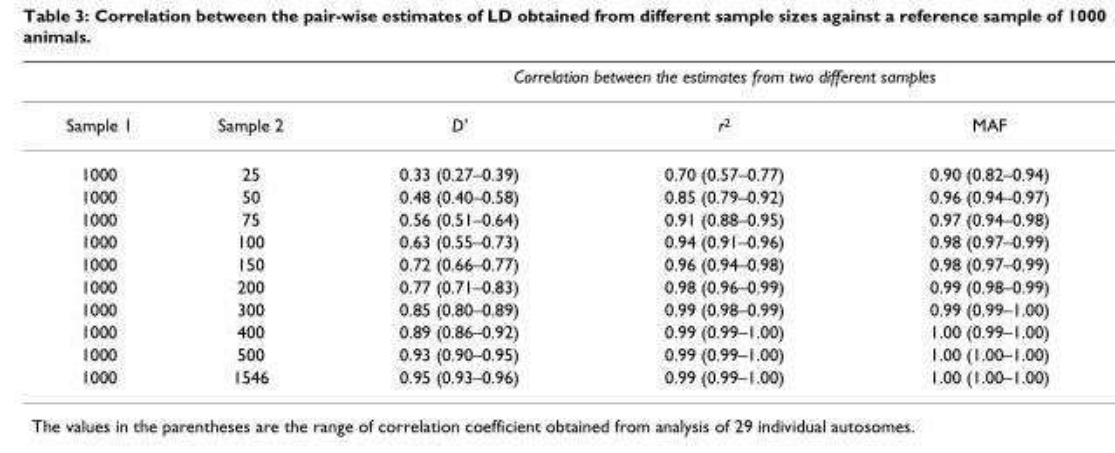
<table><thead><tr><td rowspan="2">Sample 1</td><td rowspan="2">Sample 2</td><td colspan="3">Correlation between the estimates from two different samples</td></tr><tr><td>D&#x27;</td><td>r<sup>2</sup></td><td>MAF</td></tr></thead><tbody><tr><td>1000</td><td>25</td><td>0.33 (0.27–0.39)</td><td>0.70 (0.57–0.77)</td><td>0.90 (0.82–0.94)</td></tr><tr><td>1000</td><td>50</td><td>0.48 (0.40–0.58)</td><td>0.85 (0.79–0.92)</td><td>0.96 (0.94–0.97)</td></tr><tr><td>1000</td><td>75</td><td>0.56 (0.51–0.64)</td><td>0.91 (0.88–0.95)</td><td>0.97 (0.94–0.98)</td></tr><tr><td>1000</td><td>100</td><td>0.63 (0.55–0.73)</td><td>0.94 (0.91–0.96)</td><td>0.98 (0.97–0.99)</td></tr><tr><td>1000</td><td>150</td><td>0.72 (0.66–0.77)</td><td>0.96 (0.94–0.98)</td><td>0.98 (0.97–0.99)</td></tr><tr><td>1000</td><td>200</td><td>0.77 (0.71–0.83)</td><td>0.98 (0.96–0.99)</td><td>0.99 (0.98–0.99)</td></tr><tr><td>1000</td><td>300</td><td>0.85 (0.80–0.89)</td><td>0.99 (0.98–0.99)</td><td>0.99 (0.99–1.00)</td></tr><tr><td>1000</td><td>400</td><td>0.89 (0.86–0.92)</td><td>0.99 (0.99–1.00)</td><td>1.00 (0.99–1.00)</td></tr><tr><td>1000</td><td>500</td><td>0.93 (0.90–0.95)</td><td>0.99 (0.99–1.00)</td><td>1.00 (1.00–1.00)</td></tr><tr><td>1000</td><td>1546</td><td>0.95 (0.93–0.96)</td><td>0.99 (0.99–1.00)</td><td>1.00 (1.00–1.00)</td></tr></tbody></table>